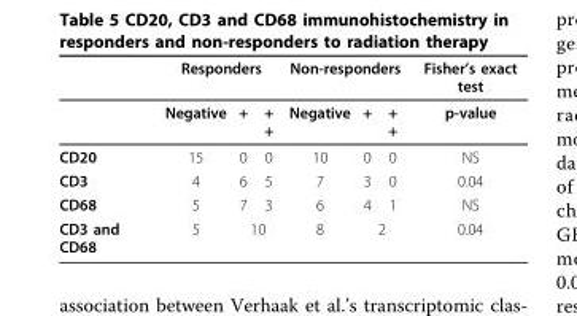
<table><thead><tr><td rowspan="2"></td><td colspan="3">Responders</td><td colspan="3">Non-responders</td><td rowspan="2">Fisher’s exact test p-value</td></tr><tr><td>Negative</td><td>+</td><td>+ +</td><td>Negative</td><td>+</td><td>+ +</td></tr></thead><tbody><tr><td>CD20</td><td>15</td><td>0</td><td>0</td><td>10</td><td>0</td><td>0</td><td>NS</td></tr><tr><td>CD3</td><td>4</td><td>6</td><td>5</td><td>7</td><td>3</td><td>0</td><td>0.04</td></tr><tr><td>CD68</td><td>5</td><td>7</td><td>3</td><td>6</td><td>4</td><td>1</td><td>NS</td></tr><tr><td>CD3 and CD68</td><td>5</td><td colspan="2">10</td><td>8</td><td colspan="2">2</td><td>0.04</td></tr></tbody></table>